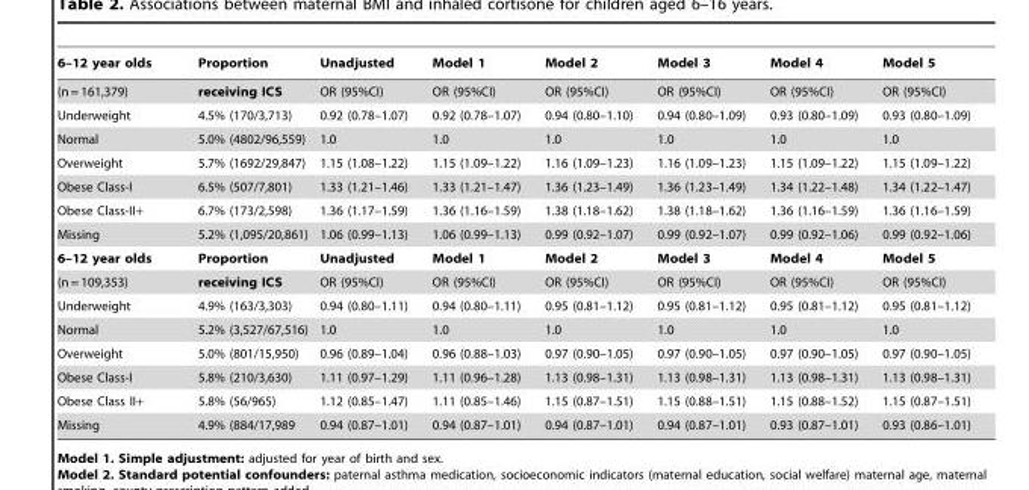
<table><thead><tr><td>6–12 year olds</td><td>Proportion</td><td>Unadjusted</td><td>Model 1</td><td>Model 2</td><td>Model 3</td><td>Model 4</td><td>Model 5</td></tr></thead><tbody><tr><td>(n = 161,379)</td><td>receiving ICS</td><td>OR (95%CI)</td><td>OR (95%CI)</td><td>OR (95%CI)</td><td>OR (95%CI)</td><td>OR (95%CI)</td><td>OR (95%CI)</td></tr><tr><td>Underweight</td><td>4.5% (170/3,713)</td><td>0.92 (0.78–1.07)</td><td>0.92 (0.78–1.07)</td><td>0.94 (0.80–1.10)</td><td>0.94 (0.80–1.09)</td><td>0.93 (0.80–1.09)</td><td>0.93 (0.80–1.09)</td></tr><tr><td>Normal</td><td>5.0% (4802/96,559)</td><td>1.0</td><td>1.0</td><td>1.0</td><td>1.0</td><td>1.0</td><td>1.0</td></tr><tr><td>Overweight</td><td>5.7% (1692/29,847)</td><td>1.15 (1.08–1.22)</td><td>1.15 (1.09–1.22)</td><td>1.16 (1.09–1.23)</td><td>1.16 (1.09–1.23)</td><td>1.15 (1.09–1.22)</td><td>1.15 (1.09–1.22)</td></tr><tr><td>Obese Class-I</td><td>6.5% (507/7,801)</td><td>1.33 (1.21–1.46)</td><td>1.33 (1.21–1.47)</td><td>1.36 (1.23–1.49)</td><td>1.36 (1.23–1.49)</td><td>1.34 (1.22–1.48)</td><td>1.34 (1.22–1.47)</td></tr><tr><td>Obese Class-II+</td><td>6.7% (173/2,598)</td><td>1.36 (1.17–1.59)</td><td>1.36 (1.16–1.59)</td><td>1.38 (1.18–1.62)</td><td>1.38 (1.18–1.62)</td><td>1.36 (1.16–1.59)</td><td>1.36 (1.16–1.59)</td></tr><tr><td>Missing</td><td>5.2% (1,095/20,861)</td><td>1.06 (0.99–1.13)</td><td>1.06 (0.99–1.13)</td><td>0.99 (0.92–1.07)</td><td>0.99 (0.92–1.07)</td><td>0.99 (0.92–1.06)</td><td>0.99 (0.92–1.06)</td></tr><tr><td>6–12 year olds</td><td>Proportion</td><td>Unadjusted</td><td>Model 1</td><td>Model 2</td><td>Model 3</td><td>Model 4</td><td>Model 5</td></tr><tr><td>(n = 109,353)</td><td>receiving ICS</td><td>OR (95%CI)</td><td>OR (95%CI)</td><td>OR (95%CI)</td><td>OR (95%CI)</td><td>OR (95%CI)</td><td>OR (95%CI)</td></tr><tr><td>Underweight</td><td>4.9% (163/3,303)</td><td>0.94 (0.80–1.11)</td><td>0.94 (0.80–1.11)</td><td>0.95 (0.81–1.12)</td><td>0.95 (0.81–1.12)</td><td>0.95 (0.81–1.12)</td><td>0.95 (0.81–1.12)</td></tr><tr><td>Normal</td><td>5.2% (3,527/67,516)</td><td>1.0</td><td>1.0</td><td>1.0</td><td>1.0</td><td>1.0</td><td>1.0</td></tr><tr><td>Overweight</td><td>5.0% (801/15,950)</td><td>0.96 (0.89–1.04)</td><td>0.96 (0.88–1.03)</td><td>0.97 (0.90–1.05)</td><td>0.97 (0.90–1.05)</td><td>0.97 (0.90–1.05)</td><td>0.97 (0.90–1.05)</td></tr><tr><td>Obese Class-I</td><td>5.8% (210/3,630)</td><td>1.11 (0.97–1.29)</td><td>1.11 (0.96–1.28)</td><td>1.13 (0.98–1.31)</td><td>1.13 (0.98–1.31)</td><td>1.13 (0.98–1.31)</td><td>1.13 (0.98–1.31)</td></tr><tr><td>Obese Class II+</td><td>5.8% (56/965)</td><td>1.12 (0.85–1.47)</td><td>1.11 (0.85–1.46)</td><td>1.15 (0.87–1.51)</td><td>1.15 (0.88–1.51)</td><td>1.15 (0.88–1.52)</td><td>1.15 (0.87–1.51)</td></tr><tr><td>Missing</td><td>4.9% (884/17,989</td><td>0.94 (0.87–1.01)</td><td>0.94 (0.87–1.01)</td><td>0.94 (0.87–1.01)</td><td>0.94 (0.87–1.01)</td><td>0.93 (0.87–1.01)</td><td>0.93 (0.86–1.01)</td></tr></tbody></table>